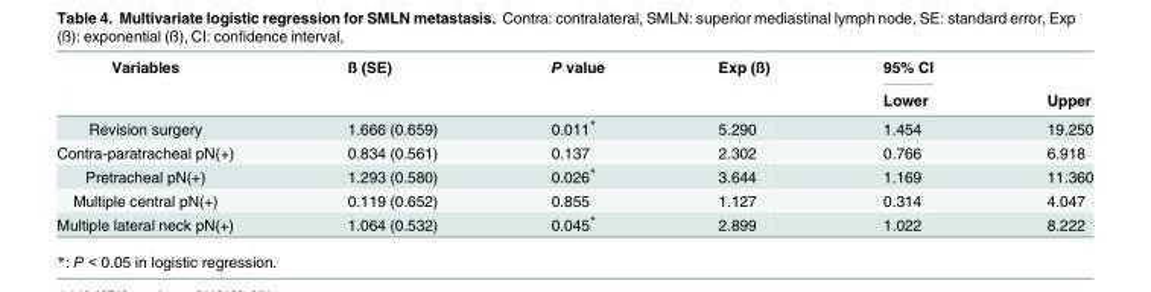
<table><thead><tr><td rowspan="2">Variables</td><td rowspan="2">ß (SE)</td><td rowspan="2">P value</td><td rowspan="2">Exp (ß)</td><td rowspan="2">95% CI Lower</td><td rowspan="2">Upper</td></tr><tr></tr></thead><tbody><tr><td>Revision surgery</td><td>1.666 (0.659)</td><td>0.011*</td><td>5.290</td><td>1.454</td><td>19.250</td></tr><tr><td>Contra-paratracheal pN(+)</td><td>0.834 (0.561)</td><td>0.137</td><td>2.302</td><td>0.766</td><td>6.918</td></tr><tr><td>Pretracheal pN(+)</td><td>1.293 (0.580)</td><td>0.026*</td><td>3.644</td><td>1.169</td><td>11.360</td></tr><tr><td>Multiple central pN(+)</td><td>0.119 (0.652)</td><td>0.855</td><td>1.127</td><td>0.314</td><td>4.047</td></tr><tr><td>Multiple lateral neck pN(+)</td><td>1.064 (0.532)</td><td>0.045*</td><td>2.899</td><td>1.022</td><td>8.222</td></tr></tbody></table>